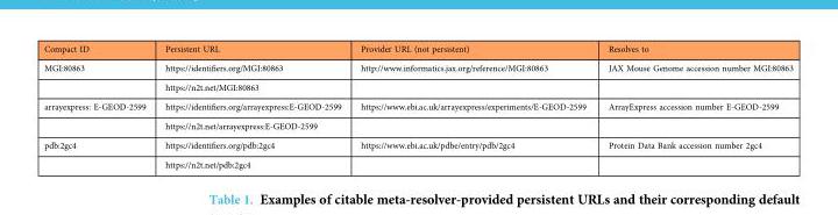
<table><thead><tr><td>Compact ID</td><td>Persistent URL</td><td>Provider URL (not persistent)</td><td>Resolves to</td></tr></thead><tbody><tr><td rowspan="2">MGI:80863</td><td>https://identifiers.org/MGI:80863</td><td>http://www.informatics.jax.org/reference/MGI:80863</td><td>JAX Mouse Genome accession number MGI:80863</td></tr><tr><td>https://n2t.net/MGI:80863</td><td></td><td></td></tr><tr><td rowspan="2">arrayexpress: E-GEOD-2599</td><td>https://identifiers.org/arrayexpress:E-GEOD-2599</td><td>https://www.ebi.ac.uk/arrayexpress/experiments/E-GEOD-2599</td><td>ArrayExpress accession number E-GEOD-2599</td></tr><tr><td>https://n2t.net/arrayexpress:E-GEOD-2599</td><td></td><td></td></tr><tr><td rowspan="2">pdb:2gc4</td><td>https://identifiers.org/pdb:2gc4</td><td>https://www.ebi.ac.uk/pdbe/entry/pdb/2gc4</td><td>Protein Data Bank accession number 2gc4</td></tr><tr><td>https://n2t.net/pdb:2gc4</td><td></td><td></td></tr></tbody></table>